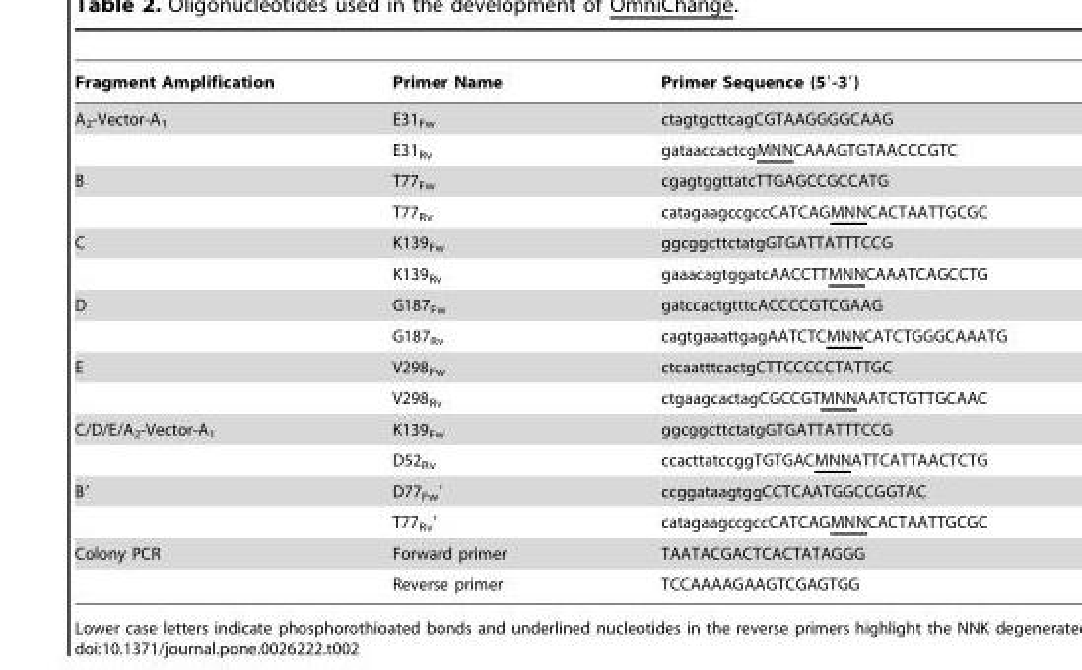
<table><thead><tr><td>Fragment Amplification</td><td>Primer Name</td><td>Primer Sequence (5′-3′)</td></tr></thead><tbody><tr><td rowspan="2">A<sub>2</sub>-Vector-A<sub>1</sub></td><td>E31<sub>Fw</sub></td><td>ctagtgcttcagCGTAAGGGGCAAG</td></tr><tr><td>E31<sub>Rv</sub></td><td>gataaccactcgMNNCAAAGTGTAACCCGTC</td></tr><tr><td rowspan="2">B</td><td>T77<sub>Fw</sub></td><td>cgagtggttatcTTGAGCCGCCATG</td></tr><tr><td>T77<sub>Rv</sub></td><td>catagaagccgccCATCAGMNNCACTAATTGCGC</td></tr><tr><td rowspan="2">C</td><td>K139<sub>Fw</sub></td><td>ggcggcttctatgGTGATTATTTCCG</td></tr><tr><td>K139<sub>Rv</sub></td><td>gaaacagtggatcAACCTTMNNCAAATCAGCCTG</td></tr><tr><td rowspan="2">D</td><td>G187<sub>Fw</sub></td><td>gatccactgtttcACCCCGTCGAAG</td></tr><tr><td>G187<sub>Rv</sub></td><td>cagtgaaattgagAATCTCMNNCATCTGGGCAAATG</td></tr><tr><td rowspan="2">E</td><td>V298<sub>Fw</sub></td><td>ctcaatttcactgCTTCCCCCTATTGC</td></tr><tr><td>V298<sub>Rv</sub></td><td>ctgaagcactagCGCCGTMNNAATCTGTTGCAAC</td></tr><tr><td rowspan="2">C/D/E/A<sub>2</sub>-Vector-A<sub>1</sub></td><td>K139<sub>Fw</sub></td><td>ggcggcttctatgGTGATTATTTCCG</td></tr><tr><td>D52<sub>Rv</sub></td><td>ccacttatccggTGTGACMNNATTCATTAACTCTG</td></tr><tr><td rowspan="2">B′</td><td>D77<sub>Fw</sub>′</td><td>ccggataagtggCCTCAATGGCCGGTAC</td></tr><tr><td>T77<sub>Rv</sub>′</td><td>catagaagccgccCATCAGMNNCACTAATTGCGC</td></tr><tr><td rowspan="2">Colony PCR</td><td>Forward primer</td><td>TAATACGACTCACTATAGGG</td></tr><tr><td>Reverse primer</td><td>TCCAAAAGAAGTCGAGTGG</td></tr></tbody></table>